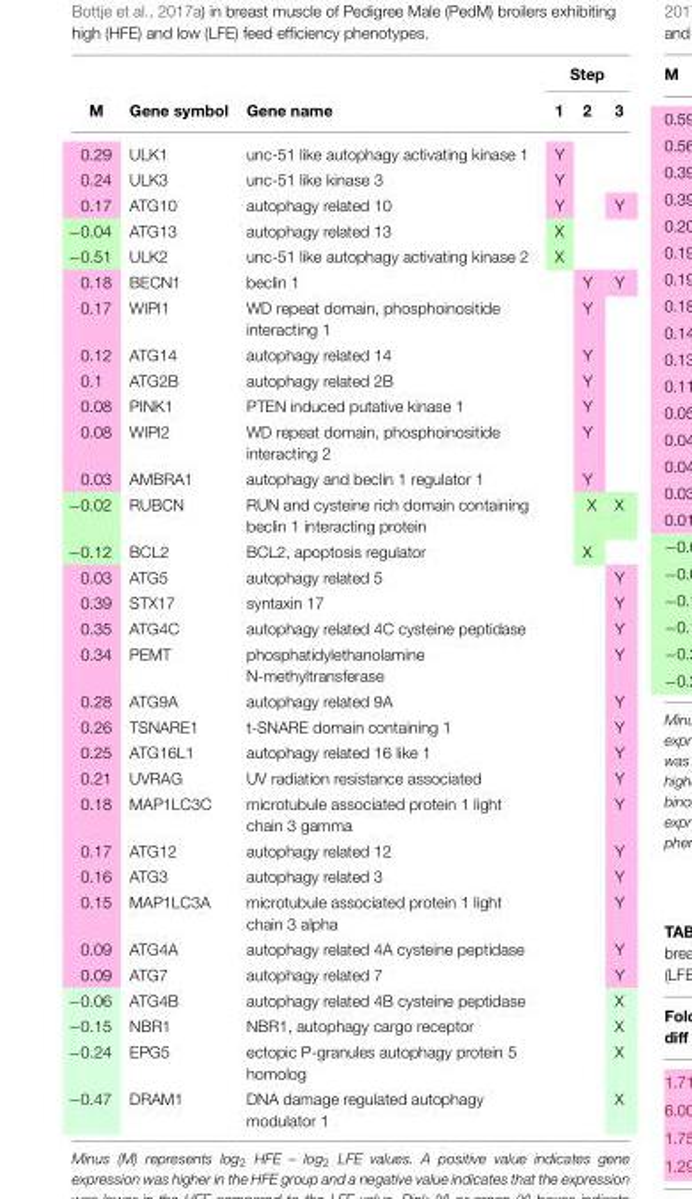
<table><thead><tr><td rowspan="2">M</td><td rowspan="2">Gene symbol</td><td rowspan="2">Gene name</td><td colspan="3">Step</td></tr><tr><td>1</td><td>2</td><td>3</td></tr></thead><tbody><tr><td>0.29</td><td>ULK1</td><td>unc-51 like autophagy activating kinase 1</td><td>Y</td><td></td><td></td></tr><tr><td>0.24</td><td>ULK3</td><td>unc-51 like kinase 3</td><td>Y</td><td></td><td></td></tr><tr><td>0.17</td><td>ATG10</td><td>autophagy related 10</td><td>Y</td><td></td><td>Y</td></tr><tr><td>−0.04</td><td>ATG13</td><td>autophagy related 13</td><td>X</td><td></td><td></td></tr><tr><td>−0.51</td><td>ULK2</td><td>unc-51 like autophagy activating kinase 2</td><td>X</td><td></td><td></td></tr><tr><td>0.18</td><td>BECN1</td><td>beclin 1</td><td></td><td>Y</td><td>Y</td></tr><tr><td>0.17</td><td>WIPI1</td><td>WD repeat domain, phosphoinositide interacting 1</td><td></td><td>Y</td><td></td></tr><tr><td>0.12</td><td>ATG14</td><td>autophagy related 14</td><td></td><td>Y</td><td></td></tr><tr><td>0.1</td><td>ATG2B</td><td>autophagy related 2B</td><td></td><td>Y</td><td></td></tr><tr><td>0.08</td><td>PINK1</td><td>PTEN induced putative kinase 1</td><td></td><td>Y</td><td></td></tr><tr><td>0.08</td><td>WIPI2</td><td>WD repeat domain, phosphoinositide interacting 2</td><td></td><td>Y</td><td></td></tr><tr><td>0.03</td><td>AMBRA1</td><td>autophagy and beclin 1 regulator 1</td><td></td><td>Y</td><td></td></tr><tr><td>−0.02</td><td>RUBCN</td><td>RUN and cysteine rich domain containing beclin 1 interacting protein</td><td></td><td>X</td><td>X</td></tr><tr><td>−0.12</td><td>BCL2</td><td>BCL2, apoptosis regulator</td><td></td><td>X</td><td></td></tr><tr><td>0.03</td><td>ATG5</td><td>autophagy related 5</td><td></td><td></td><td>Y</td></tr><tr><td>0.39</td><td>STX17</td><td>syntaxin 17</td><td></td><td></td><td>Y</td></tr><tr><td>0.35</td><td>ATG4C</td><td>autophagy related 4C cysteine peptidase</td><td></td><td></td><td>Y</td></tr><tr><td>0.34</td><td>PEMT</td><td>phosphatidylethanolamine N-methyltransferase</td><td></td><td></td><td>Y</td></tr><tr><td>0.28</td><td>ATG9A</td><td>autophagy related 9A</td><td></td><td></td><td>Y</td></tr><tr><td>0.26</td><td>TSNARE1</td><td>t-SNARE domain containing 1</td><td></td><td></td><td>Y</td></tr><tr><td>0.25</td><td>ATG16L1</td><td>autophagy related 16 like 1</td><td></td><td></td><td>Y</td></tr><tr><td>0.21</td><td>UVRAG</td><td>UV radiation resistance associated</td><td></td><td></td><td>Y</td></tr><tr><td>0.18</td><td>MAP1LC3C</td><td>microtubule associated protein 1 light chain 3 gamma</td><td></td><td></td><td>Y</td></tr><tr><td>0.17</td><td>ATG12</td><td>autophagy related 12</td><td></td><td></td><td>Y</td></tr><tr><td>0.16</td><td>ATG3</td><td>autophagy related 3</td><td></td><td></td><td>Y</td></tr><tr><td>0.15</td><td>MAP1LC3A</td><td>microtubule associated protein 1 light chain 3 alpha</td><td></td><td></td><td>Y</td></tr><tr><td>0.09</td><td>ATG4A</td><td>autophagy related 4A cysteine peptidase</td><td></td><td></td><td>Y</td></tr><tr><td>0.09</td><td>ATG7</td><td>autophagy related 7</td><td></td><td></td><td>Y</td></tr><tr><td>−0.06</td><td>ATG4B</td><td>autophagy related 4B cysteine peptidase</td><td></td><td></td><td>X</td></tr><tr><td>−0.15</td><td>NBR1</td><td>NBR1, autophagy cargo receptor</td><td></td><td></td><td>X</td></tr><tr><td>−0.24</td><td>EPG5</td><td>ectopic P-granules autophagy protein 5 homolog</td><td></td><td></td><td>X</td></tr><tr><td>−0.47</td><td>DRAM1</td><td>DNA damage regulated autophagy modulator 1</td><td></td><td></td><td>X</td></tr></tbody></table>